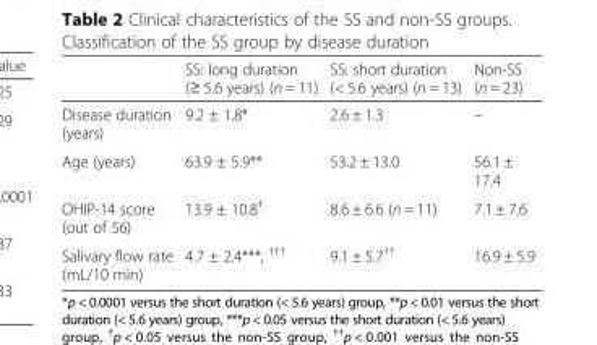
<table><thead><tr><td></td><td>SS: long duration (≥ 5.6 years) (n = 11)</td><td>SS: short duration (&lt; 5.6 years) (n = 13)</td><td>Non-SS (n = 23)</td></tr></thead><tbody><tr><td>Disease duration (years)</td><td>9.2 ± 1.8*</td><td>2.6 ± 1.3</td><td>–</td></tr><tr><td>Age (years)</td><td>63.9 ± 5.9**</td><td>53.2 ± 13.0</td><td>56.1 ± 17.4</td></tr><tr><td>OHIP-14 score (out of 56)</td><td>13.9 ± 10.8<sup>†</sup></td><td>8.6 ± 6.6 (n = 11)</td><td>7.1 ± 7.6</td></tr><tr><td>Salivary flow rate (mL/10 min)</td><td>4.7 ± 2.4***, <sup>†††</sup></td><td>9.1 ± 5.7<sup>††</sup></td><td>16.9 ± 5.9</td></tr></tbody></table>